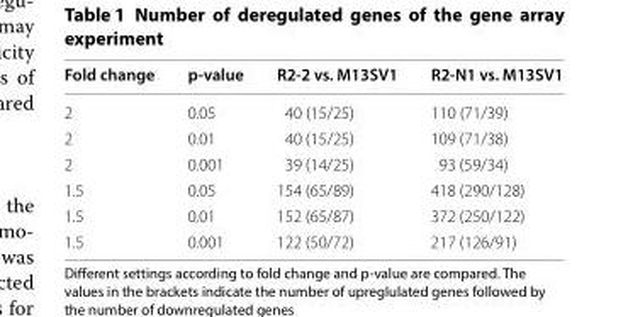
<table><thead><tr><td>Fold change</td><td>p-value</td><td>R2-2 vs. M13SV1</td><td>R2-N1 vs. M13SV1</td></tr></thead><tbody><tr><td>2</td><td>0.05</td><td>40 (15/25)</td><td>110 (71/39)</td></tr><tr><td>2</td><td>0.01</td><td>40 (15/25)</td><td>109 (71/38)</td></tr><tr><td>2</td><td>0.001</td><td>39 (14/25)</td><td>93 (59/34)</td></tr><tr><td>1.5</td><td>0.05</td><td>154 (65/89)</td><td>418 (290/128)</td></tr><tr><td>1.5</td><td>0.01</td><td>152 (65/87)</td><td>372 (250/122)</td></tr><tr><td>1.5</td><td>0.001</td><td>122 (50/72)</td><td>217 (126/91)</td></tr></tbody></table>